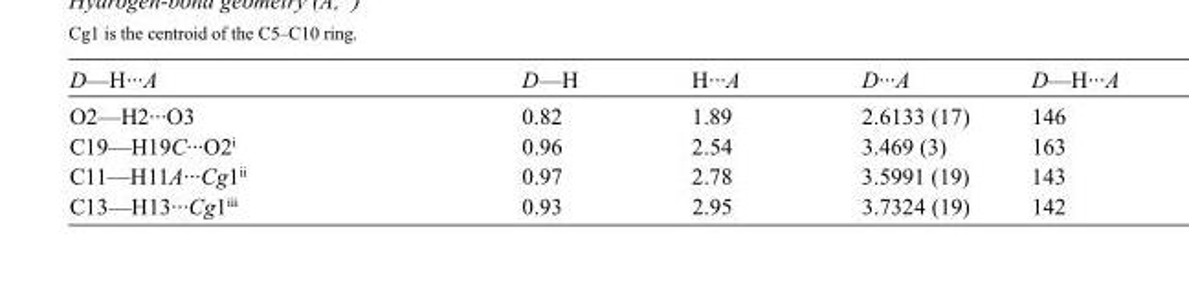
<table><tbody><tr><td>D—H···A</td><td>D—H</td><td>H···A</td><td>D···A</td><td>D—H···A</td></tr><tr><td>O2—H2···O3</td><td>0.82</td><td>1.89</td><td>2.6133 (17)</td><td>146</td></tr><tr><td>C19—H19C···O2<sup>i</sup></td><td>0.96</td><td>2.54</td><td>3.469 (3)</td><td>163</td></tr><tr><td>C11—H11A···Cg1<sup>ii</sup></td><td>0.97</td><td>2.78</td><td>3.5991 (19)</td><td>143</td></tr><tr><td>C13—H13···Cg1<sup>iii</sup></td><td>0.93</td><td>2.95</td><td>3.7324 (19)</td><td>142</td></tr></tbody></table>